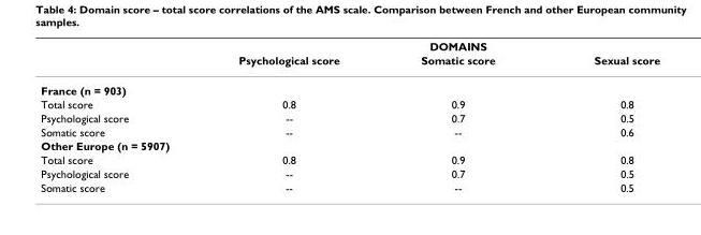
<table><thead><tr><td rowspan="2"></td><td colspan="3">DOMAINS</td></tr><tr><td>Psychological score</td><td>Somatic score</td><td>Sexual score</td></tr></thead><tbody><tr><td colspan="4">France (n = 903)</td></tr><tr><td>Total score</td><td>0.8</td><td>0.9</td><td>0.8</td></tr><tr><td>Psychological score</td><td>--</td><td>0.7</td><td>0.5</td></tr><tr><td>Somatic score</td><td>--</td><td>--</td><td>0.6</td></tr><tr><td colspan="4">Other Europe (n = 5907)</td></tr><tr><td>Total score</td><td>0.8</td><td>0.9</td><td>0.8</td></tr><tr><td>Psychological score</td><td>--</td><td>0.7</td><td>0.5</td></tr><tr><td>Somatic score</td><td>--</td><td>--</td><td>0.5</td></tr></tbody></table>